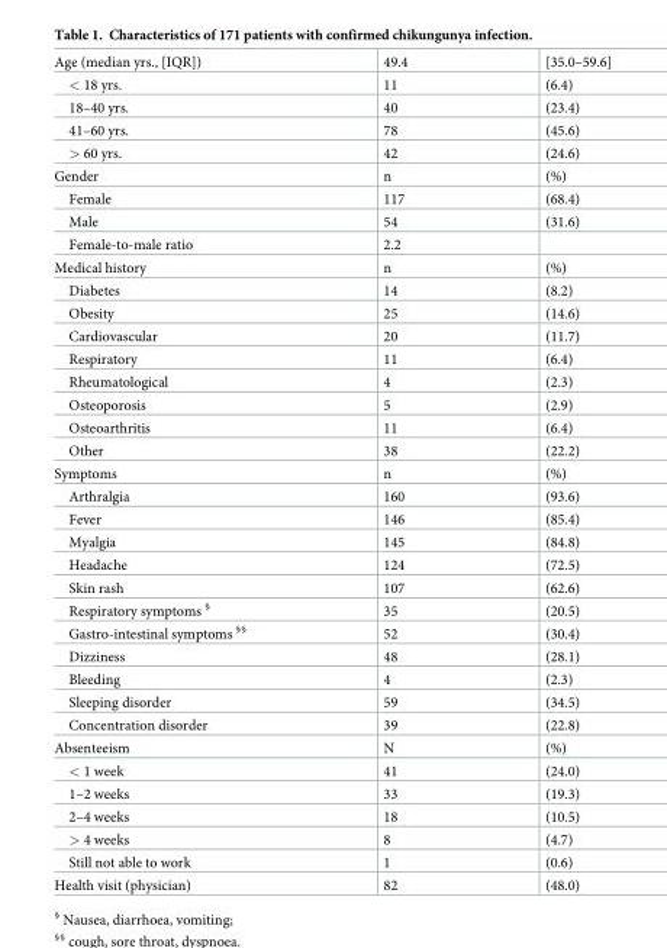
<table><tbody><tr><td>Age (median yrs., [IQR])</td><td>49.4</td><td>[35.0–59.6]</td></tr><tr><td>&lt; 18 yrs.</td><td>11</td><td>(6.4)</td></tr><tr><td>18–40 yrs.</td><td>40</td><td>(23.4)</td></tr><tr><td>41–60 yrs.</td><td>78</td><td>(45.6)</td></tr><tr><td>&gt; 60 yrs.</td><td>42</td><td>(24.6)</td></tr><tr><td>Gender</td><td>n</td><td>(%)</td></tr><tr><td>Female</td><td>117</td><td>(68.4)</td></tr><tr><td>Male</td><td>54</td><td>(31.6)</td></tr><tr><td>Female-to-male ratio</td><td>2.2</td><td></td></tr><tr><td>Medical history</td><td>n</td><td>(%)</td></tr><tr><td>Diabetes</td><td>14</td><td>(8.2)</td></tr><tr><td>Obesity</td><td>25</td><td>(14.6)</td></tr><tr><td>Cardiovascular</td><td>20</td><td>(11.7)</td></tr><tr><td>Respiratory</td><td>11</td><td>(6.4)</td></tr><tr><td>Rheumatological</td><td>4</td><td>(2.3)</td></tr><tr><td>Osteoporosis</td><td>5</td><td>(2.9)</td></tr><tr><td>Osteoarthritis</td><td>11</td><td>(6.4)</td></tr><tr><td>Other</td><td>38</td><td>(22.2)</td></tr><tr><td>Symptoms</td><td>n</td><td>(%)</td></tr><tr><td>Arthralgia</td><td>160</td><td>(93.6)</td></tr><tr><td>Fever</td><td>146</td><td>(85.4)</td></tr><tr><td>Myalgia</td><td>145</td><td>(84.8)</td></tr><tr><td>Headache</td><td>124</td><td>(72.5)</td></tr><tr><td>Skin rash</td><td>107</td><td>(62.6)</td></tr><tr><td>Respiratory symptoms <sup>§</sup></td><td>35</td><td>(20.5)</td></tr><tr><td>Gastro-intestinal symptoms <sup>§§</sup></td><td>52</td><td>(30.4)</td></tr><tr><td>Dizziness</td><td>48</td><td>(28.1)</td></tr><tr><td>Bleeding</td><td>4</td><td>(2.3)</td></tr><tr><td>Sleeping disorder</td><td>59</td><td>(34.5)</td></tr><tr><td>Concentration disorder</td><td>39</td><td>(22.8)</td></tr><tr><td>Absenteeism</td><td>N</td><td>(%)</td></tr><tr><td>&lt; 1 week</td><td>41</td><td>(24.0)</td></tr><tr><td>1–2 weeks</td><td>33</td><td>(19.3)</td></tr><tr><td>2–4 weeks</td><td>18</td><td>(10.5)</td></tr><tr><td>&gt; 4 weeks</td><td>8</td><td>(4.7)</td></tr><tr><td>Still not able to work</td><td>1</td><td>(0.6)</td></tr><tr><td>Health visit (physician)</td><td>82</td><td>(48.0)</td></tr></tbody></table>